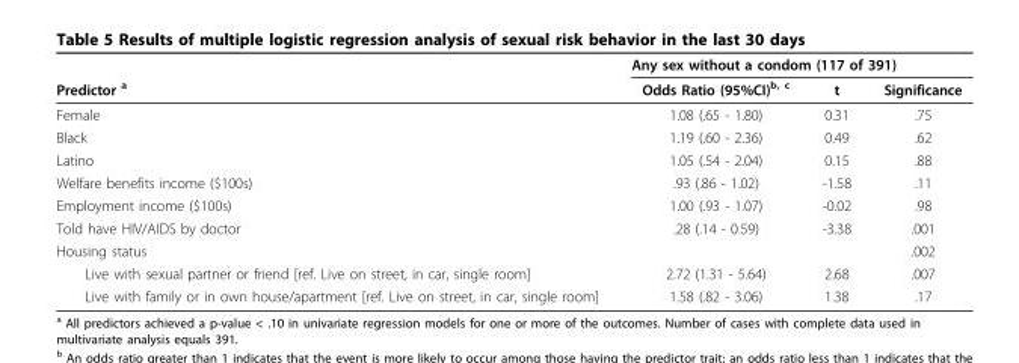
<table><thead><tr><td rowspan="2">Predictor <sup>a</sup></td><td colspan="3">Any sex without a condom (117 of 391)</td></tr><tr><td>Odds Ratio (95%CI)<sup>b, c</sup></td><td>t</td><td>Significance</td></tr></thead><tbody><tr><td>Female</td><td>1.08 (.65 - 1.80)</td><td>0.31</td><td>.75</td></tr><tr><td>Black</td><td>1.19 (.60 - 2.36)</td><td>0.49</td><td>.62</td></tr><tr><td>Latino</td><td>1.05 (.54 - 2.04)</td><td>0.15</td><td>.88</td></tr><tr><td>Welfare benefits income ($100s)</td><td>.93 (.86 - 1.02)</td><td>-1.58</td><td>.11</td></tr><tr><td>Employment income ($100s)</td><td>1.00 (.93 - 1.07)</td><td>-0.02</td><td>.98</td></tr><tr><td>Told have HIV/AIDS by doctor</td><td>.28 (.14 - 0.59)</td><td>-3.38</td><td>.001</td></tr><tr><td>Housing status</td><td></td><td></td><td>.002</td></tr><tr><td>Live with sexual partner or friend [ref. Live on street, in car, single room]</td><td>2.72 (1.31 - 5.64)</td><td>2.68</td><td>.007</td></tr><tr><td>Live with family or in own house/apartment [ref. Live on street, in car, single room]</td><td>1.58 (.82 - 3.06)</td><td>1.38</td><td>.17</td></tr></tbody></table>